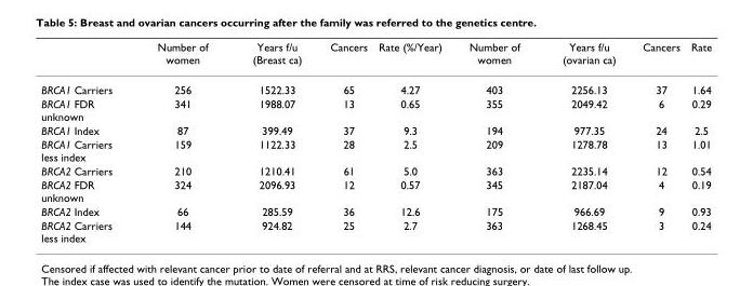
<table><thead><tr><td></td><td>Number of women</td><td>Years f/u (Breast ca)</td><td>Cancers</td><td>Rate (%/Year)</td><td>Number of women</td><td>Years f/u (ovarian ca)</td><td>Cancers</td><td>Rate</td></tr></thead><tbody><tr><td>BRCA1 Carriers</td><td>256</td><td>1522.33</td><td>65</td><td>4.27</td><td>403</td><td>2256.13</td><td>37</td><td>1.64</td></tr><tr><td>BRCA1 FDR unknown</td><td>341</td><td>1988.07</td><td>13</td><td>0.65</td><td>355</td><td>2049.42</td><td>6</td><td>0.29</td></tr><tr><td>BRCA1 Index</td><td>87</td><td>399.49</td><td>37</td><td>9.3</td><td>194</td><td>977.35</td><td>24</td><td>2.5</td></tr><tr><td>BRCA1 Carriers less index</td><td>159</td><td>1122.33</td><td>28</td><td>2.5</td><td>209</td><td>1278.78</td><td>13</td><td>1.01</td></tr><tr><td>BRCA2 Carriers</td><td>210</td><td>1210.41</td><td>61</td><td>5.0</td><td>363</td><td>2235.14</td><td>12</td><td>0.54</td></tr><tr><td>BRCA2 FDR unknown</td><td>324</td><td>2096.93</td><td>12</td><td>0.57</td><td>345</td><td>2187.04</td><td>4</td><td>0.19</td></tr><tr><td>BRCA2 Index</td><td>66</td><td>285.59</td><td>36</td><td>12.6</td><td>175</td><td>966.69</td><td>9</td><td>0.93</td></tr><tr><td>BRCA2 Carriers less index</td><td>144</td><td>924.82</td><td>25</td><td>2.7</td><td>363</td><td>1268.45</td><td>3</td><td>0.24</td></tr></tbody></table>